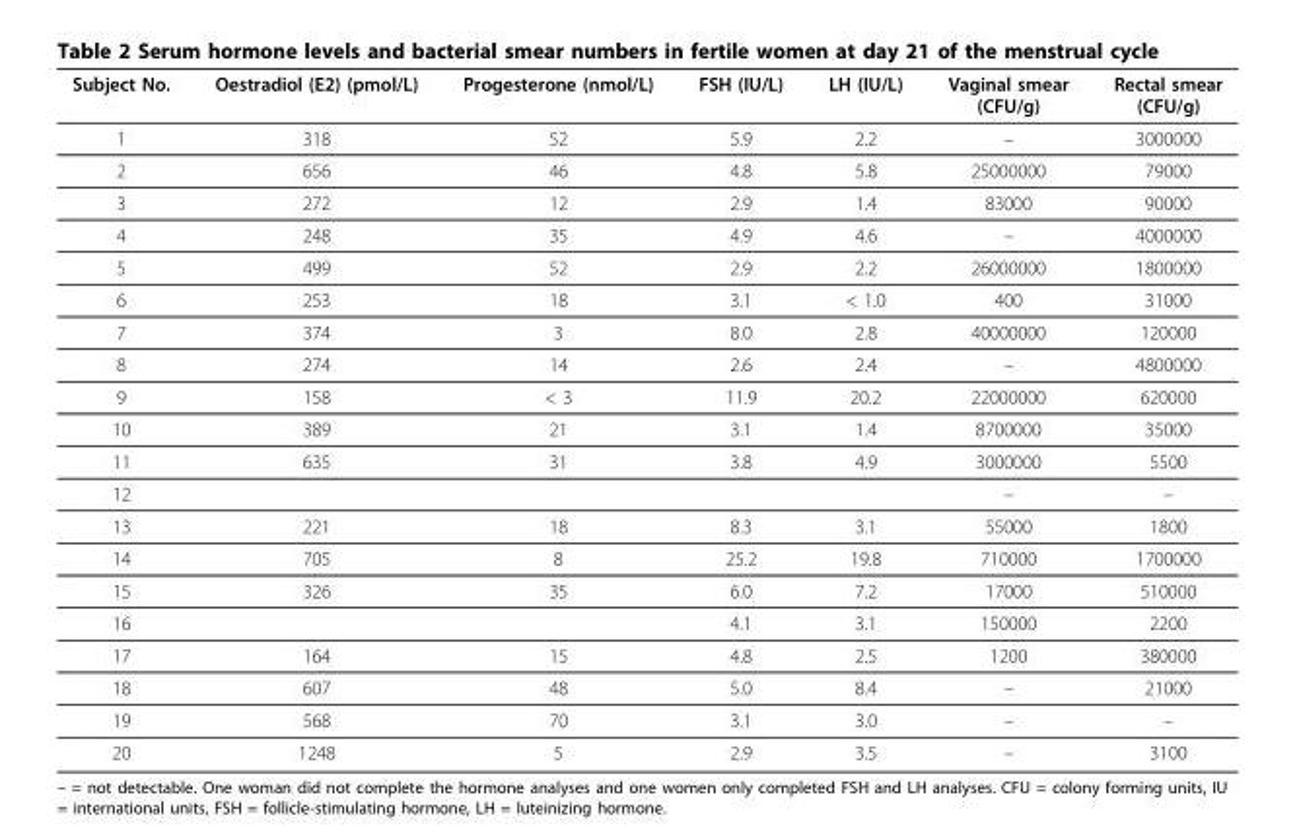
<table><thead><tr><td>Subject No.</td><td>Oestradiol (E2) (pmol/L)</td><td>Progesterone (nmol/L)</td><td>FSH (IU/L)</td><td>LH (IU/L)</td><td>Vaginal smear (CFU/g)</td><td>Rectal smear (CFU/g)</td></tr></thead><tbody><tr><td>1</td><td>318</td><td>52</td><td>5.9</td><td>2.2</td><td>–</td><td>3000000</td></tr><tr><td>2</td><td>656</td><td>46</td><td>4.8</td><td>5.8</td><td>25000000</td><td>79000</td></tr><tr><td>3</td><td>272</td><td>12</td><td>2.9</td><td>1.4</td><td>83000</td><td>90000</td></tr><tr><td>4</td><td>248</td><td>35</td><td>4.9</td><td>4.6</td><td>–</td><td>4000000</td></tr><tr><td>5</td><td>499</td><td>52</td><td>2.9</td><td>2.2</td><td>26000000</td><td>1800000</td></tr><tr><td>6</td><td>253</td><td>18</td><td>3.1</td><td>&lt; 1.0</td><td>400</td><td>31000</td></tr><tr><td>7</td><td>374</td><td>3</td><td>8.0</td><td>2.8</td><td>40000000</td><td>120000</td></tr><tr><td>8</td><td>274</td><td>14</td><td>2.6</td><td>2.4</td><td>–</td><td>4800000</td></tr><tr><td>9</td><td>158</td><td>&lt; 3</td><td>11.9</td><td>20.2</td><td>22000000</td><td>620000</td></tr><tr><td>10</td><td>389</td><td>21</td><td>3.1</td><td>1.4</td><td>8700000</td><td>35000</td></tr><tr><td>11</td><td>635</td><td>31</td><td>3.8</td><td>4.9</td><td>3000000</td><td>5500</td></tr><tr><td>12</td><td></td><td></td><td></td><td></td><td>–</td><td>–</td></tr><tr><td>13</td><td>221</td><td>18</td><td>8.3</td><td>3.1</td><td>55000</td><td>1800</td></tr><tr><td>14</td><td>705</td><td>8</td><td>25.2</td><td>19.8</td><td>710000</td><td>1700000</td></tr><tr><td>15</td><td>326</td><td>35</td><td>6.0</td><td>7.2</td><td>17000</td><td>510000</td></tr><tr><td>16</td><td></td><td></td><td>4.1</td><td>3.1</td><td>150000</td><td>2200</td></tr><tr><td>17</td><td>164</td><td>15</td><td>4.8</td><td>2.5</td><td>1200</td><td>380000</td></tr><tr><td>18</td><td>607</td><td>48</td><td>5.0</td><td>8.4</td><td>–</td><td>21000</td></tr><tr><td>19</td><td>568</td><td>70</td><td>3.1</td><td>3.0</td><td>–</td><td>–</td></tr><tr><td>20</td><td>1248</td><td>5</td><td>2.9</td><td>3.5</td><td>–</td><td>3100</td></tr></tbody></table>